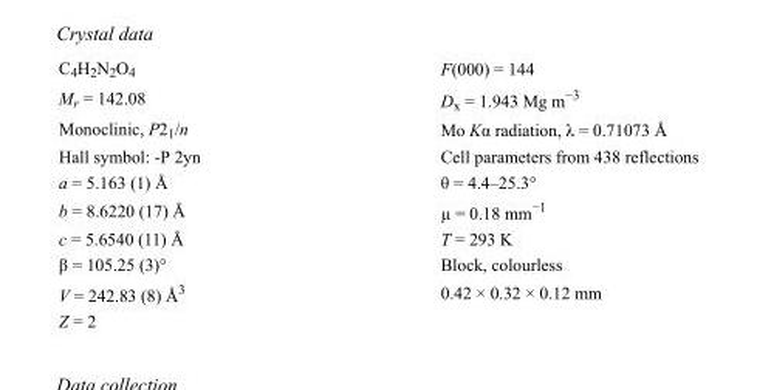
<table><tbody><tr><td>C<sub>4</sub>H<sub>2</sub>N<sub>2</sub>O<sub>4</sub></td><td>F(000) = 144</td></tr><tr><td>M<sub>r</sub> = 142.08</td><td>D<sub>x</sub> = 1.943 Mg m<sup>−3</sup></td></tr><tr><td>Monoclinic, P2<sub>1</sub>/n</td><td>Mo Kα radiation, λ = 0.71073 Å</td></tr><tr><td>Hall symbol: -P 2yn</td><td>Cell parameters from 438 reflections</td></tr><tr><td>a = 5.163 (1) Å</td><td>θ = 4.4–25.3°</td></tr><tr><td>b = 8.6220 (17) Å</td><td>µ = 0.18 mm<sup>−1</sup></td></tr><tr><td>c = 5.6540 (11) Å</td><td>T = 293 K</td></tr><tr><td>β = 105.25 (3)°</td><td>Block, colourless</td></tr><tr><td>V = 242.83 (8) Å<sup>3</sup></td><td>0.42 × 0.32 × 0.12 mm</td></tr><tr><td>Z = 2</td><td></td></tr></tbody></table>